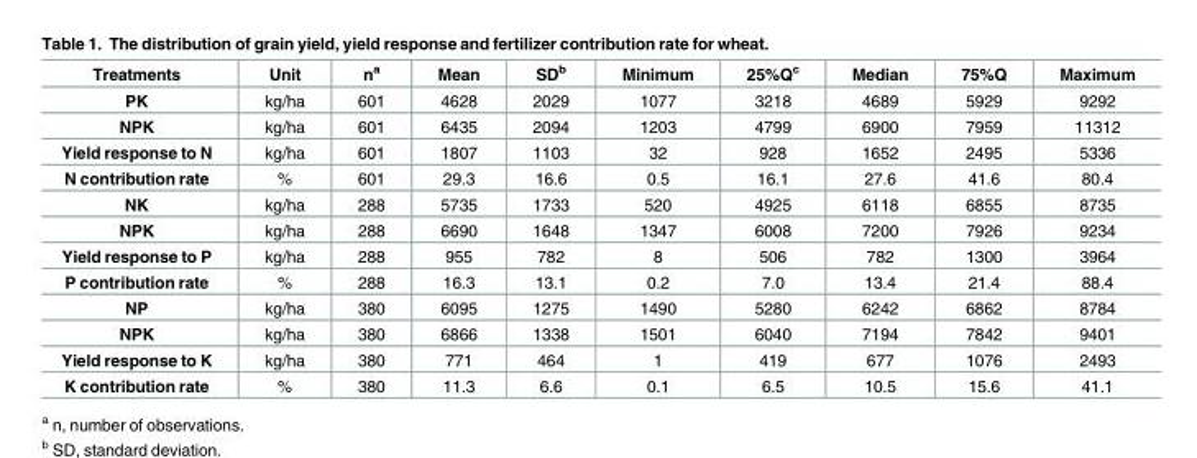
<table><thead><tr><td>Treatments</td><td>Unit</td><td>n<sup>a</sup></td><td>Mean</td><td>SD<sup>b</sup></td><td>Minimum</td><td>25%Q<sup>c</sup></td><td>Median</td><td>75%Q</td><td>Maximum</td></tr></thead><tbody><tr><td>PK</td><td>kg/ha</td><td>601</td><td>4628</td><td>2029</td><td>1077</td><td>3218</td><td>4689</td><td>5929</td><td>9292</td></tr><tr><td>NPK</td><td>kg/ha</td><td>601</td><td>6435</td><td>2094</td><td>1203</td><td>4799</td><td>6900</td><td>7959</td><td>11312</td></tr><tr><td>Yield response to N</td><td>kg/ha</td><td>601</td><td>1807</td><td>1103</td><td>32</td><td>928</td><td>1652</td><td>2495</td><td>5336</td></tr><tr><td>N contribution rate</td><td>%</td><td>601</td><td>29.3</td><td>16.6</td><td>0.5</td><td>16.1</td><td>27.6</td><td>41.6</td><td>80.4</td></tr><tr><td>NK</td><td>kg/ha</td><td>288</td><td>5735</td><td>1733</td><td>520</td><td>4925</td><td>6118</td><td>6855</td><td>8735</td></tr><tr><td>NPK</td><td>kg/ha</td><td>288</td><td>6690</td><td>1648</td><td>1347</td><td>6008</td><td>7200</td><td>7926</td><td>9234</td></tr><tr><td>Yield response to P</td><td>kg/ha</td><td>288</td><td>955</td><td>782</td><td>8</td><td>506</td><td>782</td><td>1300</td><td>3964</td></tr><tr><td>P contribution rate</td><td>%</td><td>288</td><td>16.3</td><td>13.1</td><td>0.2</td><td>7.0</td><td>13.4</td><td>21.4</td><td>88.4</td></tr><tr><td>NP</td><td>kg/ha</td><td>380</td><td>6095</td><td>1275</td><td>1490</td><td>5280</td><td>6242</td><td>6862</td><td>8784</td></tr><tr><td>NPK</td><td>kg/ha</td><td>380</td><td>6866</td><td>1338</td><td>1501</td><td>6040</td><td>7194</td><td>7842</td><td>9401</td></tr><tr><td>Yield response to K</td><td>kg/ha</td><td>380</td><td>771</td><td>464</td><td>1</td><td>419</td><td>677</td><td>1076</td><td>2493</td></tr><tr><td>K contribution rate</td><td>%</td><td>380</td><td>11.3</td><td>6.6</td><td>0.1</td><td>6.5</td><td>10.5</td><td>15.6</td><td>41.1</td></tr></tbody></table>